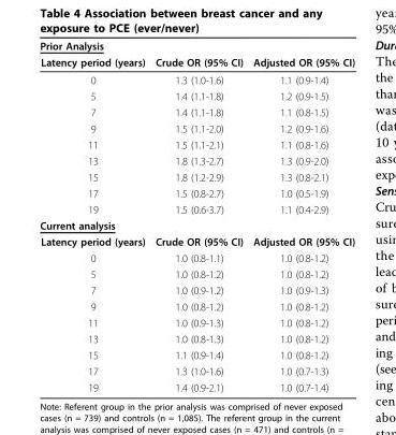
<table><thead><tr><td rowspan="2">Prior Analysis Latency period (years)</td><td rowspan="2">Crude OR (95% CI)</td><td rowspan="2">Adjusted OR (95% CI)</td></tr><tr></tr></thead><tbody><tr><td>0</td><td>1.3 (1.0-1.6)</td><td>1.1 (0.9-1.4)</td></tr><tr><td>5</td><td>1.4 (1.1-1.8)</td><td>1.2 (0.9-1.5)</td></tr><tr><td>7</td><td>1.4 (1.1-1.8)</td><td>1.1 (0.8-1.5)</td></tr><tr><td>9</td><td>1.5 (1.1-2.0)</td><td>1.2 (0.9-1.6)</td></tr><tr><td>11</td><td>1.5 (1.1-2.1)</td><td>1.1 (0.8-1.6)</td></tr><tr><td>13</td><td>1.8 (1.3-2.7)</td><td>1.3 (0.9-2.0)</td></tr><tr><td>15</td><td>1.8 (1.2-2.9)</td><td>1.3 (0.8-2.1)</td></tr><tr><td>17</td><td>1.5 (0.8-2.7)</td><td>1.0 (0.5-1.9)</td></tr><tr><td>19</td><td>1.5 (0.6-3.7)</td><td>1.1 (0.4-2.9)</td></tr><tr><td colspan="3">Current analysis</td></tr><tr><td>Latency period (years)</td><td>Crude OR (95% CI)</td><td>Adjusted OR (95% CI)</td></tr><tr><td>0</td><td>1.0 (0.8-1.1)</td><td>1.0 (0.8-1.2)</td></tr><tr><td>5</td><td>1.0 (0.8-1.2)</td><td>1.0 (0.8-1.2)</td></tr><tr><td>7</td><td>1.0 (0.9-1.2)</td><td>1.0 (0.9-1.3)</td></tr><tr><td>9</td><td>1.0 (0.8-1.2)</td><td>1.0 (0.8-1.2)</td></tr><tr><td>11</td><td>1.0 (0.9-1.3)</td><td>1.0 (0.8-1.2)</td></tr><tr><td>13</td><td>1.0 (0.8-1.3)</td><td>1.0 (0.8-1.2)</td></tr><tr><td>15</td><td>1.1 (0.9-1.4)</td><td>1.0 (0.8-1.2)</td></tr><tr><td>17</td><td>1.3 (1.0-1.6)</td><td>1.0 (0.7-1.3)</td></tr><tr><td>19</td><td>1.4 (0.9-2.1)</td><td>1.0 (0.7-1.4)</td></tr></tbody></table>